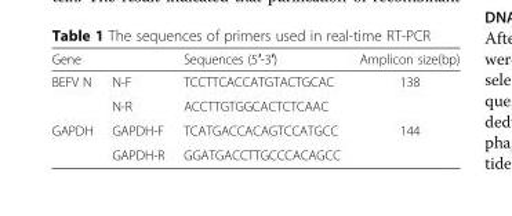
<table><thead><tr><td>Gene</td><td></td><td>Sequences (5′-3′)</td><td>Amplicon size(bp)</td></tr></thead><tbody><tr><td rowspan="2">BEFV N</td><td>N-F</td><td>TCCTTCACCATGTACTGCAC</td><td rowspan="2">138</td></tr><tr><td>N-R</td><td>ACCTTGTGGCACTCTCAAC</td></tr><tr><td rowspan="2">GAPDH</td><td>GAPDH-F</td><td>TCATGACCACAGTCCATGCC</td><td rowspan="2">144</td></tr><tr><td>GAPDH-R</td><td>GGATGACCTTGCCCACAGCC</td></tr></tbody></table>